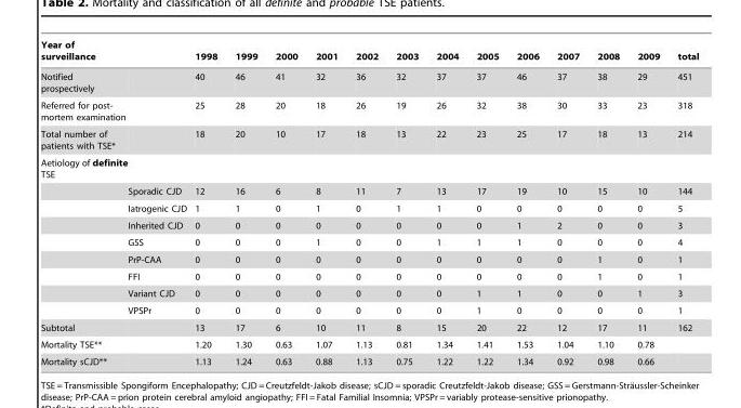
<table><thead><tr><td>Year of surveillance</td><td></td><td>1998</td><td>1999</td><td>2000</td><td>2001</td><td>2002</td><td>2003</td><td>2004</td><td>2005</td><td>2006</td><td>2007</td><td>2008</td><td>2009</td><td>total</td></tr></thead><tbody><tr><td>Notified prospectively</td><td></td><td>40</td><td>46</td><td>41</td><td>32</td><td>36</td><td>32</td><td>37</td><td>37</td><td>46</td><td>37</td><td>38</td><td>29</td><td>451</td></tr><tr><td>Referred for post- mortem examination</td><td></td><td>25</td><td>28</td><td>20</td><td>18</td><td>26</td><td>19</td><td>26</td><td>32</td><td>38</td><td>30</td><td>33</td><td>23</td><td>318</td></tr><tr><td>Total number of patients with TSE*</td><td></td><td>18</td><td>20</td><td>10</td><td>17</td><td>18</td><td>13</td><td>22</td><td>23</td><td>25</td><td>17</td><td>18</td><td>13</td><td>214</td></tr><tr><td colspan="15">Aetiology of definite TSE</td></tr><tr><td></td><td>Sporadic CJD</td><td>12</td><td>16</td><td>6</td><td>8</td><td>11</td><td>7</td><td>13</td><td>17</td><td>19</td><td>10</td><td>15</td><td>10</td><td>144</td></tr><tr><td></td><td>Iatrogenic CJD</td><td>1</td><td>1</td><td>0</td><td>1</td><td>0</td><td>1</td><td>1</td><td>0</td><td>0</td><td>0</td><td>0</td><td>0</td><td>5</td></tr><tr><td></td><td>Inherited CJD</td><td>0</td><td>0</td><td>0</td><td>0</td><td>0</td><td>0</td><td>0</td><td>0</td><td>1</td><td>2</td><td>0</td><td>0</td><td>3</td></tr><tr><td></td><td>GSS</td><td>0</td><td>0</td><td>0</td><td>1</td><td>0</td><td>0</td><td>1</td><td>1</td><td>1</td><td>0</td><td>0</td><td>0</td><td>4</td></tr><tr><td></td><td>PrP-CAA</td><td>0</td><td>0</td><td>0</td><td>0</td><td>0</td><td>0</td><td>0</td><td>0</td><td>0</td><td>0</td><td>1</td><td>0</td><td>1</td></tr><tr><td></td><td>FFI</td><td>0</td><td>0</td><td>0</td><td>0</td><td>0</td><td>0</td><td>0</td><td>0</td><td>0</td><td>0</td><td>1</td><td>0</td><td>1</td></tr><tr><td></td><td>Variant CJD</td><td>0</td><td>0</td><td>0</td><td>0</td><td>0</td><td>0</td><td>0</td><td>1</td><td>1</td><td>0</td><td>0</td><td>1</td><td>3</td></tr><tr><td></td><td>VPSPr</td><td>0</td><td>0</td><td>0</td><td>0</td><td>0</td><td>0</td><td>0</td><td>1</td><td>0</td><td>0</td><td>0</td><td>0</td><td>1</td></tr><tr><td>Subtotal</td><td></td><td>13</td><td>17</td><td>6</td><td>10</td><td>11</td><td>8</td><td>15</td><td>20</td><td>22</td><td>12</td><td>17</td><td>11</td><td>162</td></tr><tr><td>Mortality TSE**</td><td></td><td>1.20</td><td>1.30</td><td>0.63</td><td>1.07</td><td>1.13</td><td>0.81</td><td>1.34</td><td>1.41</td><td>1.53</td><td>1.04</td><td>1.10</td><td>0.78</td><td></td></tr><tr><td>Mortality sCJD**</td><td></td><td>1.13</td><td>1.24</td><td>0.63</td><td>0.88</td><td>1.13</td><td>0.75</td><td>1.22</td><td>1.22</td><td>1.34</td><td>0.92</td><td>0.98</td><td>0.66</td><td></td></tr></tbody></table>